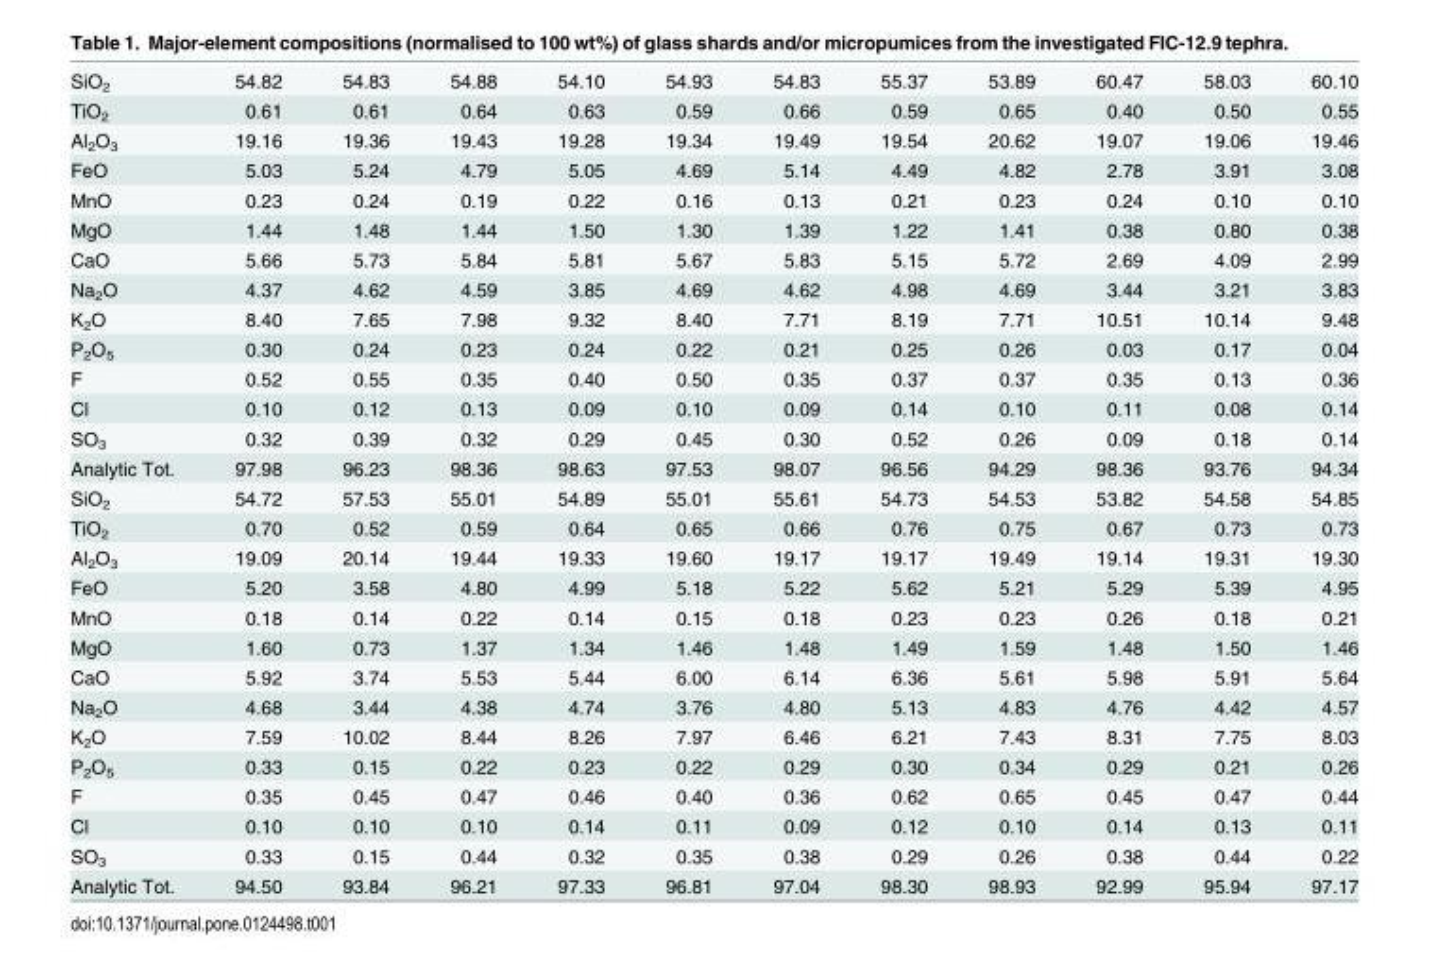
<table><tbody><tr><td>SiO<sub>2</sub></td><td>54.82</td><td>54.83</td><td>54.88</td><td>54.10</td><td>54.93</td><td>54.83</td><td>55.37</td><td>53.89</td><td>60.47</td><td>58.03</td><td>60.10</td></tr><tr><td>TiO<sub>2</sub></td><td>0.61</td><td>0.61</td><td>0.64</td><td>0.63</td><td>0.59</td><td>0.66</td><td>0.59</td><td>0.65</td><td>0.40</td><td>0.50</td><td>0.55</td></tr><tr><td>Al<sub>2</sub>O<sub>3</sub></td><td>19.16</td><td>19.36</td><td>19.43</td><td>19.28</td><td>19.34</td><td>19.49</td><td>19.54</td><td>20.62</td><td>19.07</td><td>19.06</td><td>19.46</td></tr><tr><td>FeO</td><td>5.03</td><td>5.24</td><td>4.79</td><td>5.05</td><td>4.69</td><td>5.14</td><td>4.49</td><td>4.82</td><td>2.78</td><td>3.91</td><td>3.08</td></tr><tr><td>MnO</td><td>0.23</td><td>0.24</td><td>0.19</td><td>0.22</td><td>0.16</td><td>0.13</td><td>0.21</td><td>0.23</td><td>0.24</td><td>0.10</td><td>0.10</td></tr><tr><td>MgO</td><td>1.44</td><td>1.48</td><td>1.44</td><td>1.50</td><td>1.30</td><td>1.39</td><td>1.22</td><td>1.41</td><td>0.38</td><td>0.80</td><td>0.38</td></tr><tr><td>CaO</td><td>5.66</td><td>5.73</td><td>5.84</td><td>5.81</td><td>5.67</td><td>5.83</td><td>5.15</td><td>5.72</td><td>2.69</td><td>4.09</td><td>2.99</td></tr><tr><td>Na<sub>2</sub>O</td><td>4.37</td><td>4.62</td><td>4.59</td><td>3.85</td><td>4.69</td><td>4.62</td><td>4.98</td><td>4.69</td><td>3.44</td><td>3.21</td><td>3.83</td></tr><tr><td>K<sub>2</sub>O</td><td>8.40</td><td>7.65</td><td>7.98</td><td>9.32</td><td>8.40</td><td>7.71</td><td>8.19</td><td>7.71</td><td>10.51</td><td>10.14</td><td>9.48</td></tr><tr><td>P<sub>2</sub>O<sub>5</sub></td><td>0.30</td><td>0.24</td><td>0.23</td><td>0.24</td><td>0.22</td><td>0.21</td><td>0.25</td><td>0.26</td><td>0.03</td><td>0.17</td><td>0.04</td></tr><tr><td>F</td><td>0.52</td><td>0.55</td><td>0.35</td><td>0.40</td><td>0.50</td><td>0.35</td><td>0.37</td><td>0.37</td><td>0.35</td><td>0.13</td><td>0.36</td></tr><tr><td>Cl</td><td>0.10</td><td>0.12</td><td>0.13</td><td>0.09</td><td>0.10</td><td>0.09</td><td>0.14</td><td>0.10</td><td>0.11</td><td>0.08</td><td>0.14</td></tr><tr><td>SO<sub>3</sub></td><td>0.32</td><td>0.39</td><td>0.32</td><td>0.29</td><td>0.45</td><td>0.30</td><td>0.52</td><td>0.26</td><td>0.09</td><td>0.18</td><td>0.14</td></tr><tr><td>Analytic Tot.</td><td>97.98</td><td>96.23</td><td>98.36</td><td>98.63</td><td>97.53</td><td>98.07</td><td>96.56</td><td>94.29</td><td>98.36</td><td>93.76</td><td>94.34</td></tr><tr><td>SiO<sub>2</sub></td><td>54.72</td><td>57.53</td><td>55.01</td><td>54.89</td><td>55.01</td><td>55.61</td><td>54.73</td><td>54.53</td><td>53.82</td><td>54.58</td><td>54.85</td></tr><tr><td>TiO<sub>2</sub></td><td>0.70</td><td>0.52</td><td>0.59</td><td>0.64</td><td>0.65</td><td>0.66</td><td>0.76</td><td>0.75</td><td>0.67</td><td>0.73</td><td>0.73</td></tr><tr><td>Al<sub>2</sub>O<sub>3</sub></td><td>19.09</td><td>20.14</td><td>19.44</td><td>19.33</td><td>19.60</td><td>19.17</td><td>19.17</td><td>19.49</td><td>19.14</td><td>19.31</td><td>19.30</td></tr><tr><td>FeO</td><td>5.20</td><td>3.58</td><td>4.80</td><td>4.99</td><td>5.18</td><td>5.22</td><td>5.62</td><td>5.21</td><td>5.29</td><td>5.39</td><td>4.95</td></tr><tr><td>MnO</td><td>0.18</td><td>0.14</td><td>0.22</td><td>0.14</td><td>0.15</td><td>0.18</td><td>0.23</td><td>0.23</td><td>0.26</td><td>0.18</td><td>0.21</td></tr><tr><td>MgO</td><td>1.60</td><td>0.73</td><td>1.37</td><td>1.34</td><td>1.46</td><td>1.48</td><td>1.49</td><td>1.59</td><td>1.48</td><td>1.50</td><td>1.46</td></tr><tr><td>CaO</td><td>5.92</td><td>3.74</td><td>5.53</td><td>5.44</td><td>6.00</td><td>6.14</td><td>6.36</td><td>5.61</td><td>5.98</td><td>5.91</td><td>5.64</td></tr><tr><td>Na<sub>2</sub>O</td><td>4.68</td><td>3.44</td><td>4.38</td><td>4.74</td><td>3.76</td><td>4.80</td><td>5.13</td><td>4.83</td><td>4.76</td><td>4.42</td><td>4.57</td></tr><tr><td>K<sub>2</sub>O</td><td>7.59</td><td>10.02</td><td>8.44</td><td>8.26</td><td>7.97</td><td>6.46</td><td>6.21</td><td>7.43</td><td>8.31</td><td>7.75</td><td>8.03</td></tr><tr><td>P<sub>2</sub>O<sub>5</sub></td><td>0.33</td><td>0.15</td><td>0.22</td><td>0.23</td><td>0.22</td><td>0.29</td><td>0.30</td><td>0.34</td><td>0.29</td><td>0.21</td><td>0.26</td></tr><tr><td>F</td><td>0.35</td><td>0.45</td><td>0.47</td><td>0.46</td><td>0.40</td><td>0.36</td><td>0.62</td><td>0.65</td><td>0.45</td><td>0.47</td><td>0.44</td></tr><tr><td>Cl</td><td>0.10</td><td>0.10</td><td>0.10</td><td>0.14</td><td>0.11</td><td>0.09</td><td>0.12</td><td>0.10</td><td>0.14</td><td>0.13</td><td>0.11</td></tr><tr><td>SO<sub>3</sub></td><td>0.33</td><td>0.15</td><td>0.44</td><td>0.32</td><td>0.35</td><td>0.38</td><td>0.29</td><td>0.26</td><td>0.38</td><td>0.44</td><td>0.22</td></tr><tr><td>Analytic Tot.</td><td>94.50</td><td>93.84</td><td>96.21</td><td>97.33</td><td>96.81</td><td>97.04</td><td>98.30</td><td>98.93</td><td>92.99</td><td>95.94</td><td>97.17</td></tr></tbody></table>